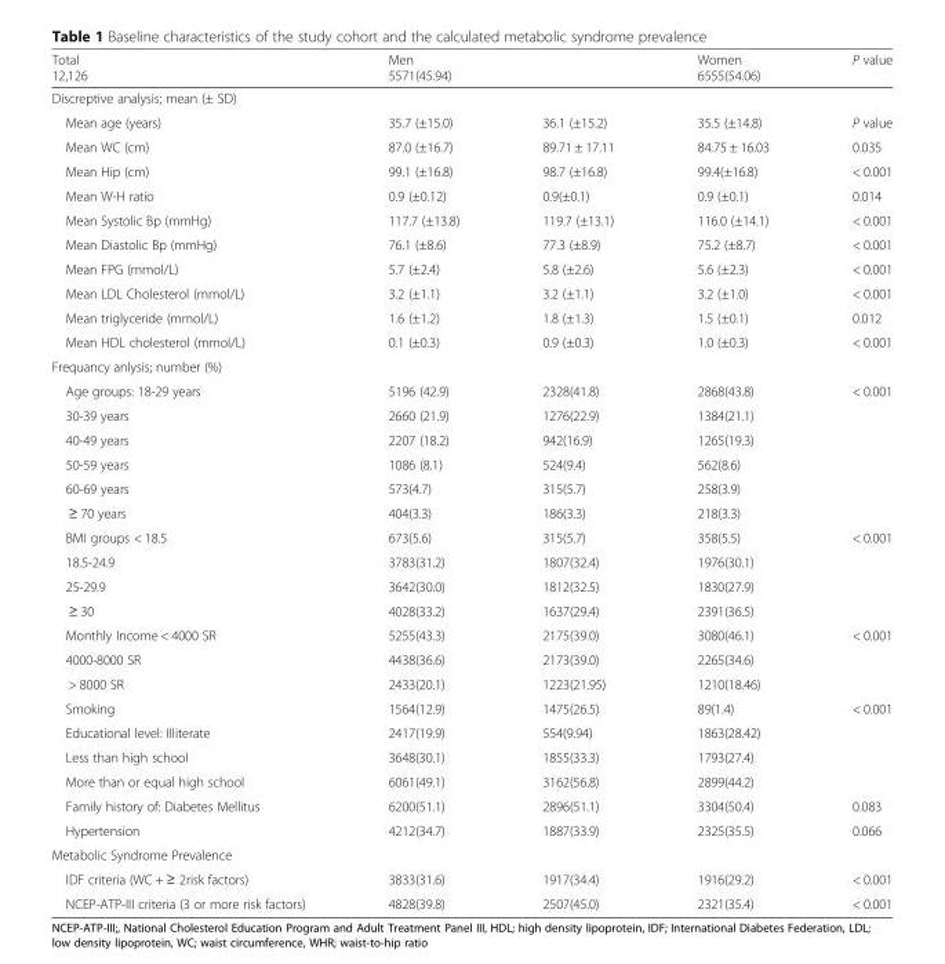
<table><thead><tr><td>Total 12,126</td><td colspan="2">Men 5571(45.94)</td><td>Women 6555(54.06)</td><td rowspan="3">P value P value</td></tr><tr><td colspan="4">Discreptive analysis; mean (± SD)</td></tr><tr><td>Mean age (years)</td><td>35.7 (±15.0)</td><td>36.1 (±15.2)</td><td>35.5 (±14.8)</td></tr></thead><tbody><tr><td>Mean WC (cm)</td><td>87.0 (±16.7)</td><td>89.71 ± 17.11</td><td>84.75 ± 16.03</td><td>0.035</td></tr><tr><td>Mean Hip (cm)</td><td>99.1 (±16.8)</td><td>98.7 (±16.8)</td><td>99.4(±16.8)</td><td>&lt; 0.001</td></tr><tr><td>Mean W-H ratio</td><td>0.9 (±0.12)</td><td>0.9(±0.1)</td><td>0.9 (±0.1)</td><td>0.014</td></tr><tr><td>Mean Systolic Bp (mmHg)</td><td>117.7 (±13.8)</td><td>119.7 (±13.1)</td><td>116.0 (±14.1)</td><td>&lt; 0.001</td></tr><tr><td>Mean Diastolic Bp (mmHg)</td><td>76.1 (±8.6)</td><td>77.3 (±8.9)</td><td>75.2 (±8.7)</td><td>&lt; 0.001</td></tr><tr><td>Mean FPG (mmol/L)</td><td>5.7 (±2.4)</td><td>5.8 (±2.6)</td><td>5.6 (±2.3)</td><td>&lt; 0.001</td></tr><tr><td>Mean LDL Cholesterol (mmol/L)</td><td>3.2 (±1.1)</td><td>3.2 (±1.1)</td><td>3.2 (±1.0)</td><td>&lt; 0.001</td></tr><tr><td>Mean triglyceride (mmol/L)</td><td>1.6 (±1.2)</td><td>1.8 (±1.3)</td><td>1.5 (±0.1)</td><td>0.012</td></tr><tr><td>Mean HDL cholesterol (mmol/L)</td><td>0.1 (±0.3)</td><td>0.9 (±0.3)</td><td>1.0 (±0.3)</td><td>&lt; 0.001</td></tr><tr><td colspan="5">Frequancy anlysis; number (%)</td></tr><tr><td>Age groups: 18-29 years</td><td>5196 (42.9)</td><td>2328(41.8)</td><td>2868(43.8)</td><td rowspan="6">&lt; 0.001</td></tr><tr><td>30-39 years</td><td>2660 (21.9)</td><td>1276(22.9)</td><td>1384(21.1)</td></tr><tr><td>40-49 years</td><td>2207 (18.2)</td><td>942(16.9)</td><td>1265(19.3)</td></tr><tr><td>50-59 years</td><td>1086 (8.1)</td><td>524(9.4)</td><td>562(8.6)</td></tr><tr><td>60-69 years</td><td>573(4.7)</td><td>315(5.7)</td><td>258(3.9)</td></tr><tr><td>≥ 70 years</td><td>404(3.3)</td><td>186(3.3)</td><td>218(3.3)</td></tr><tr><td>BMI groups &lt; 18.5</td><td>673(5.6)</td><td>315(5.7)</td><td>358(5.5)</td><td rowspan="4">&lt; 0.001</td></tr><tr><td>18.5-24.9</td><td>3783(31.2)</td><td>1807(32.4)</td><td>1976(30.1)</td></tr><tr><td>25-29.9</td><td>3642(30.0)</td><td>1812(32.5)</td><td>1830(27.9)</td></tr><tr><td>≥ 30</td><td>4028(33.2)</td><td>1637(29.4)</td><td>2391(36.5)</td></tr><tr><td>Monthly Income &lt; 4000 SR</td><td>5255(43.3)</td><td>2175(39.0)</td><td>3080(46.1)</td><td rowspan="3">&lt; 0.001</td></tr><tr><td>4000-8000 SR</td><td>4438(36.6)</td><td>2173(39.0)</td><td>2265(34.6)</td></tr><tr><td>&gt; 8000 SR</td><td>2433(20.1)</td><td>1223(21.95)</td><td>1210(18.46)</td></tr><tr><td>Smoking</td><td>1564(12.9)</td><td>1475(26.5)</td><td>89(1.4)</td><td rowspan="4">&lt; 0.001</td></tr><tr><td>Educational level: Illiterate</td><td>2417(19.9)</td><td>554(9.94)</td><td>1863(28.42)</td></tr><tr><td>Less than high school</td><td>3648(30.1)</td><td>1855(33.3)</td><td>1793(27.4)</td></tr><tr><td>More than or equal high school</td><td>6061(49.1)</td><td>3162(56.8)</td><td>2899(44.2)</td></tr><tr><td>Family history of: Diabetes Mellitus</td><td>6200(51.1)</td><td>2896(51.1)</td><td>3304(50.4)</td><td>0.083</td></tr><tr><td>Hypertension</td><td>4212(34.7)</td><td>1887(33.9)</td><td>2325(35.5)</td><td>0.066</td></tr><tr><td colspan="5">Metabolic Syndrome Prevalence</td></tr><tr><td>IDF criteria (WC + ≥ 2risk factors)</td><td>3833(31.6)</td><td>1917(34.4)</td><td>1916(29.2)</td><td>&lt; 0.001</td></tr><tr><td>NCEP-ATP-III criteria (3 or more risk factors)</td><td>4828(39.8)</td><td>2507(45.0)</td><td>2321(35.4)</td><td>&lt; 0.001</td></tr></tbody></table>